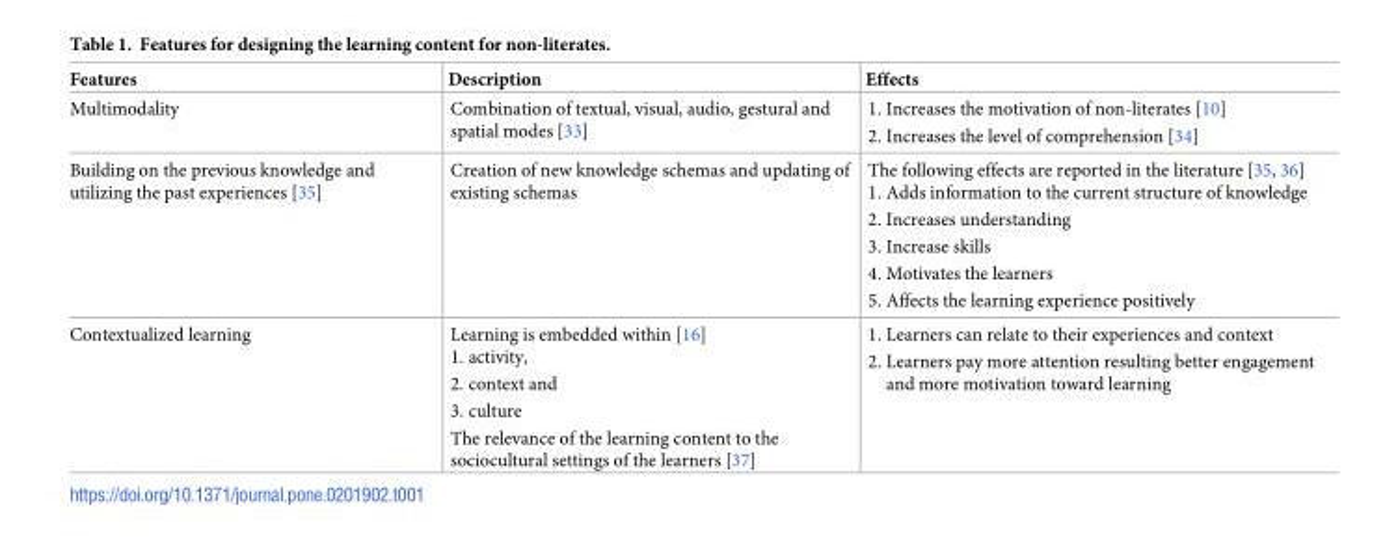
<table><thead><tr><td>Features</td><td>Description</td><td>Effects</td></tr></thead><tbody><tr><td>Multimodality</td><td>Combination of textual, visual, audio, gestural and spatial modes [33]</td><td>1. Increases the motivation of non-literates [10] 2. Increases the level of comprehension [34]</td></tr><tr><td>Building on the previous knowledge and utilizing the past experiences [35]</td><td>Creation of new knowledge schemas and updating of existing schemas</td><td>The following effects are reported in the literature [35, 36] 1. Adds information to the current structure of knowledge 2. Increases understanding 3. Increase skills 4. Motivates the learners 5. Affects the learning experience positively</td></tr><tr><td>Contextualized learning</td><td>Learning is embedded within [16] 1. activity, 2. context and 3. culture The relevance of the learning content to the sociocultural settings of the learners [37]</td><td>1. Learners can relate to their experiences and context 2. Learners pay more attention resulting better engagement and more motivation toward learning</td></tr></tbody></table>